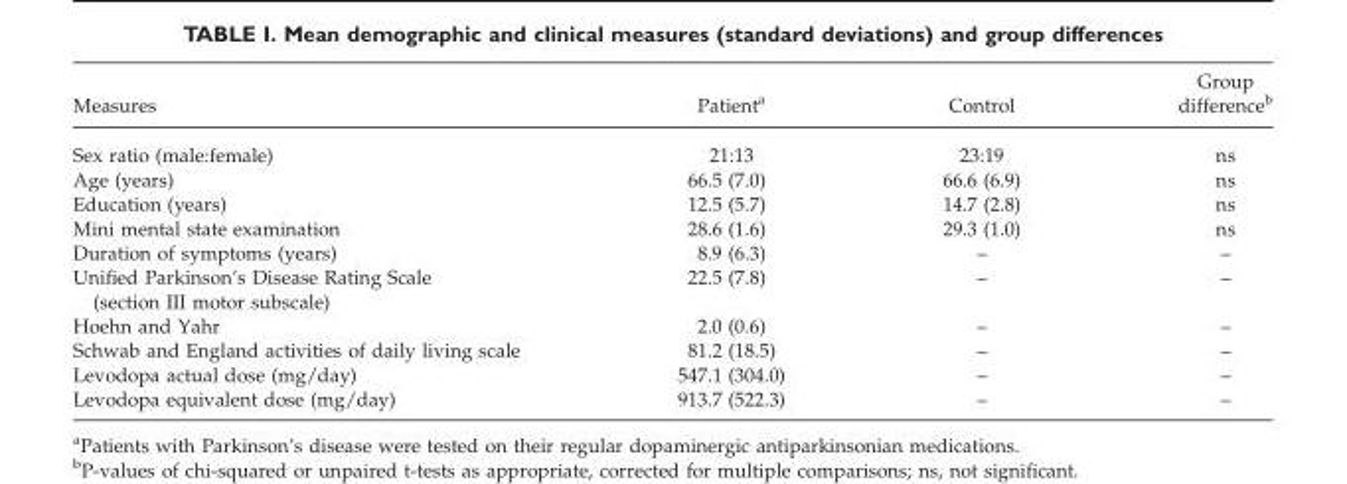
<table><thead><tr><td>Measures</td><td>Patient<sup>a</sup></td><td>Control</td><td>Group difference<sup>b</sup></td></tr></thead><tbody><tr><td>Sex ratio (male:female)</td><td>21:13</td><td>23:19</td><td>ns</td></tr><tr><td>Age (years)</td><td>66.5 (7.0)</td><td>66.6 (6.9)</td><td>ns</td></tr><tr><td>Education (years)</td><td>12.5 (5.7)</td><td>14.7 (2.8)</td><td>ns</td></tr><tr><td>Mini mental state examination</td><td>28.6 (1.6)</td><td>29.3 (1.0)</td><td>ns</td></tr><tr><td>Duration of symptoms (years)</td><td>8.9 (6.3)</td><td>–</td><td>–</td></tr><tr><td>Unified Parkinson’s Disease Rating Scale (section III motor subscale)</td><td>22.5 (7.8)</td><td>–</td><td>–</td></tr><tr><td>Hoehn and Yahr</td><td>2.0 (0.6)</td><td>–</td><td>–</td></tr><tr><td>Schwab and England activities of daily living scale</td><td>81.2 (18.5)</td><td>–</td><td>–</td></tr><tr><td>Levodopa actual dose (mg/day)</td><td>547.1 (304.0)</td><td>–</td><td>–</td></tr><tr><td>Levodopa equivalent dose (mg/day)</td><td>913.7 (522.3)</td><td>–</td><td>–</td></tr></tbody></table>